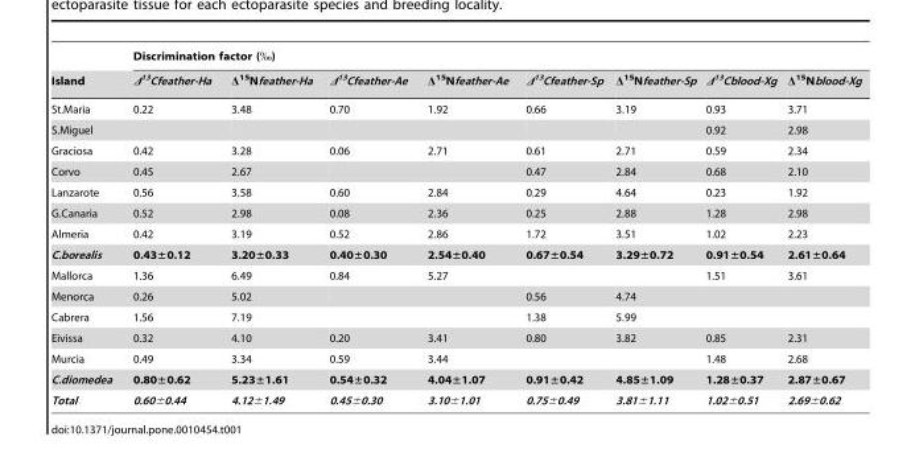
<table><thead><tr><td rowspan="2">Island</td><td colspan="8">Discrimination factor (‰)</td></tr><tr><td>Δ<sup>13</sup>Cfeather-Ha</td><td>Δ<sup>15</sup>Nfeather-Ha</td><td>Δ<sup>13</sup>Cfeather-Ae</td><td>Δ<sup>15</sup>Nfeather-Ae</td><td>Δ<sup>13</sup>Cfeather-Sp</td><td>Δ<sup>15</sup>Nfeather-Sp</td><td>Δ<sup>13</sup>Cblood-Xg</td><td>Δ<sup>15</sup>Nblood-Xg</td></tr></thead><tbody><tr><td>St.Maria</td><td>0.22</td><td>3.48</td><td>0.70</td><td>1.92</td><td>0.66</td><td>3.19</td><td>0.93</td><td>3.71</td></tr><tr><td>S.Miguel</td><td></td><td></td><td></td><td></td><td></td><td></td><td>0.92</td><td>2.98</td></tr><tr><td>Graciosa</td><td>0.42</td><td>3.28</td><td>0.06</td><td>2.71</td><td>0.61</td><td>2.71</td><td>0.59</td><td>2.34</td></tr><tr><td>Corvo</td><td>0.45</td><td>2.67</td><td></td><td></td><td>0.47</td><td>2.84</td><td>0.68</td><td>2.10</td></tr><tr><td>Lanzarote</td><td>0.56</td><td>3.58</td><td>0.60</td><td>2.84</td><td>0.29</td><td>4.64</td><td>0.23</td><td>1.92</td></tr><tr><td>G.Canaria</td><td>0.52</td><td>2.98</td><td>0.08</td><td>2.36</td><td>0.25</td><td>2.88</td><td>1.28</td><td>2.98</td></tr><tr><td>Almeria</td><td>0.42</td><td>3.19</td><td>0.52</td><td>2.86</td><td>1.72</td><td>3.51</td><td>1.02</td><td>2.23</td></tr><tr><td>C.borealis</td><td>0.43±0.12</td><td>3.20±0.33</td><td>0.40±0.30</td><td>2.54±0.40</td><td>0.67±0.54</td><td>3.29±0.72</td><td>0.91±0.54</td><td>2.61±0.64</td></tr><tr><td>Mallorca</td><td>1.36</td><td>6.49</td><td>0.84</td><td>5.27</td><td></td><td></td><td>1.51</td><td>3.61</td></tr><tr><td>Menorca</td><td>0.26</td><td>5.02</td><td></td><td></td><td>0.56</td><td>4.74</td><td></td><td></td></tr><tr><td>Cabrera</td><td>1.56</td><td>7.19</td><td></td><td></td><td>1.38</td><td>5.99</td><td></td><td></td></tr><tr><td>Eivissa</td><td>0.32</td><td>4.10</td><td>0.20</td><td>3.41</td><td>0.80</td><td>3.82</td><td>0.85</td><td>2.31</td></tr><tr><td>Murcia</td><td>0.49</td><td>3.34</td><td>0.59</td><td>3.44</td><td></td><td></td><td>1.48</td><td>2.68</td></tr><tr><td>C.diomedea</td><td>0.80±0.62</td><td>5.23±1.61</td><td>0.54±0.32</td><td>4.04±1.07</td><td>0.91±0.42</td><td>4.85±1.09</td><td>1.28±0.37</td><td>2.87±0.67</td></tr><tr><td>Total</td><td>0.60±0.44</td><td>4.12±1.49</td><td>0.45±0.30</td><td>3.10±1.01</td><td>0.75±0.49</td><td>3.81±1.11</td><td>1.02±0.51</td><td>2.69±0.62</td></tr></tbody></table>